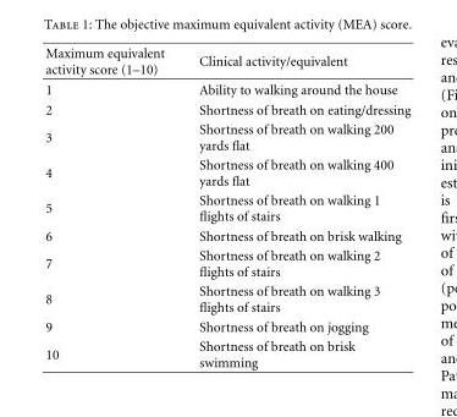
<table><thead><tr><td>Maximum equivalent activity score (1–10)</td><td>Clinical activity/equivalent</td></tr></thead><tbody><tr><td>1</td><td>Ability to walking around the house</td></tr><tr><td>2</td><td>Shortness of breath on eating/dressing</td></tr><tr><td>3</td><td>Shortness of breath on walking 200 yards flat</td></tr><tr><td>4</td><td>Shortness of breath on walking 400 yards flat</td></tr><tr><td>5</td><td>Shortness of breath on walking 1 flights of stairs</td></tr><tr><td>6</td><td>Shortness of breath on brisk walking</td></tr><tr><td>7</td><td>Shortness of breath on walking 2 flights of stairs</td></tr><tr><td>8</td><td>Shortness of breath on walking 3 flights of stairs</td></tr><tr><td>9</td><td>Shortness of breath on jogging</td></tr><tr><td>10</td><td>Shortness of breath on brisk swimming</td></tr></tbody></table>